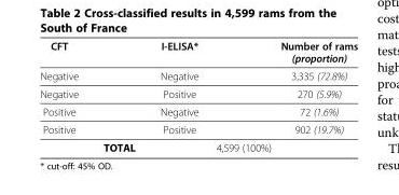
<table><thead><tr><td>CFT</td><td>I-ELISA*</td><td>Number of rams (proportion)</td></tr></thead><tbody><tr><td>Negative</td><td>Negative</td><td>3,335 (72.8%)</td></tr><tr><td>Negative</td><td>Positive</td><td>270 (5.9%)</td></tr><tr><td>Positive</td><td>Negative</td><td>72 (1.6%)</td></tr><tr><td>Positive</td><td>Positive</td><td>902 (19.7%)</td></tr><tr><td colspan="2">TOTAL</td><td>4,599 (100%)</td></tr></tbody></table>